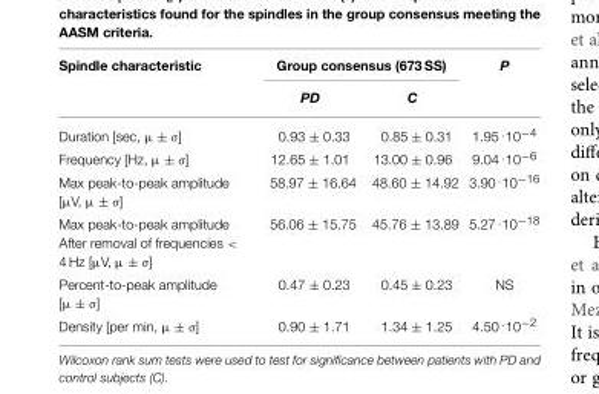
<table><thead><tr><td rowspan="2">Spindle characteristic</td><td colspan="2">Group consensus (673 SS)</td><td rowspan="2">P</td></tr><tr><td>PD</td><td>C</td></tr></thead><tbody><tr><td>Duration [sec, µ ± σ]</td><td>0.93 ± 0.33</td><td>0.85 ± 0.31</td><td>1.95 .10−4</td></tr><tr><td>Frequency [Hz, µ ± σ]</td><td>12.65 ± 1.01</td><td>13.00 ± 0.96</td><td>9.04 .10−6</td></tr><tr><td>Max peak-to-peak amplitude [µV, µ ± σ]</td><td>58.97 ± 16.64</td><td>48.60 ± 14.92</td><td>3.90 .10−16</td></tr><tr><td>Max peak-to-peak amplitude After removal of frequencies &lt; 4 Hz [µV, µ ± σ]</td><td>56.06 ± 15.75</td><td>45.76 ± 13.89</td><td>5.27 .10−18</td></tr><tr><td>Percent-to-peak amplitude [µ ± σ]</td><td>0.47 ± 0.23</td><td>0.45 ± 0.23</td><td>NS</td></tr><tr><td>Density [per min, µ ± σ]</td><td>0.90 ± 1.71</td><td>1.34 ± 1.25</td><td>4.50 .10−2</td></tr></tbody></table>